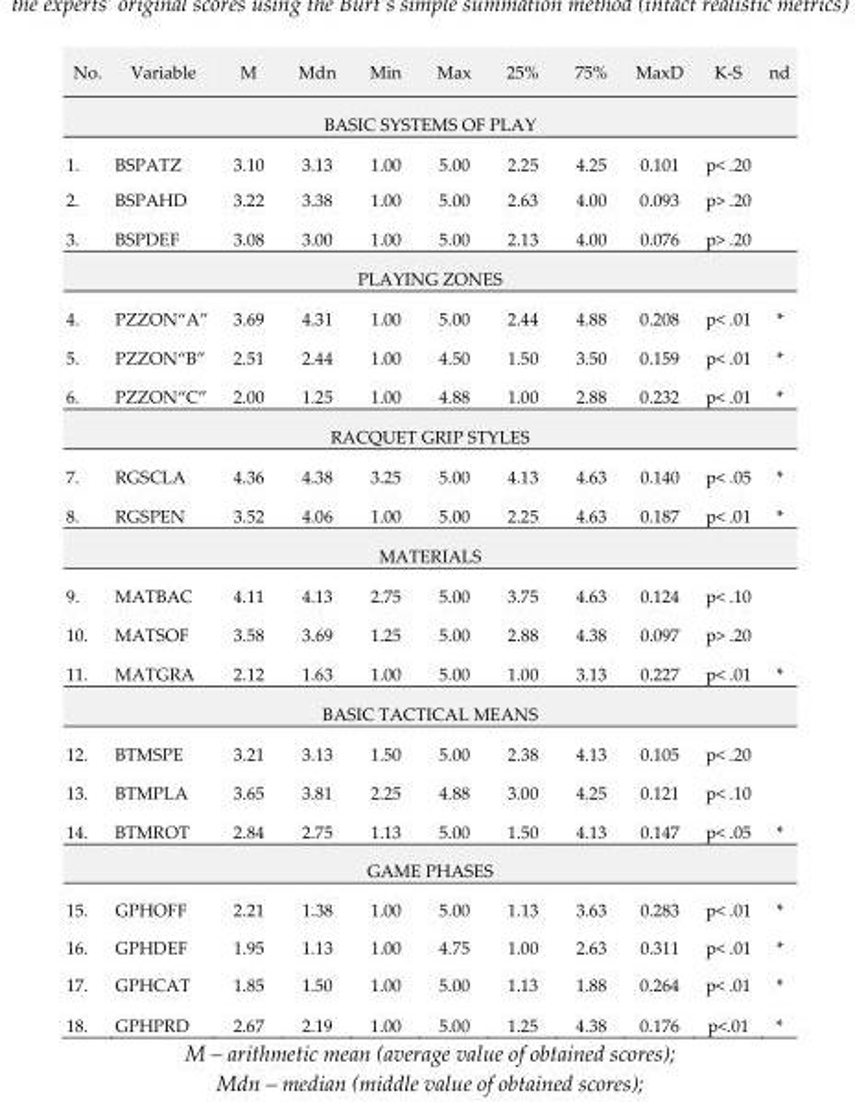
<table><thead><tr><td>No.</td><td>Variable</td><td>M</td><td>Mdn</td><td>Min</td><td>Max</td><td>25%</td><td>75%</td><td>MaxD</td><td>K-S</td><td>nd</td></tr></thead><tbody><tr><td colspan="11">BASIC SYSTEMS OF PLAY</td></tr><tr><td>1.</td><td>BSPATZ</td><td>3.10</td><td>3.13</td><td>1.00</td><td>5.00</td><td>2.25</td><td>4.25</td><td>0.101</td><td>p&lt; .20</td><td></td></tr><tr><td>2.</td><td>BSPAHD</td><td>3.22</td><td>3.38</td><td>1.00</td><td>5.00</td><td>2.63</td><td>4.00</td><td>0.093</td><td>p&gt; .20</td><td></td></tr><tr><td>3.</td><td>BSPDEF</td><td>3.08</td><td>3.00</td><td>1.00</td><td>5.00</td><td>2.13</td><td>4.00</td><td>0.076</td><td>p&gt; .20</td><td></td></tr><tr><td colspan="11">PLAYING ZONES</td></tr><tr><td>4.</td><td>PZZON“A”</td><td>3.69</td><td>4.31</td><td>1.00</td><td>5.00</td><td>2.44</td><td>4.88</td><td>0.208</td><td>p&lt; .01</td><td>*</td></tr><tr><td>5.</td><td>PZZON“B”</td><td>2.51</td><td>2.44</td><td>1.00</td><td>4.50</td><td>1.50</td><td>3.50</td><td>0.159</td><td>p&lt; .01</td><td>*</td></tr><tr><td>6.</td><td>PZZON“C”</td><td>2.00</td><td>1.25</td><td>1.00</td><td>4.88</td><td>1.00</td><td>2.88</td><td>0.232</td><td>p&lt; .01</td><td>*</td></tr><tr><td colspan="11">RACQUET GRIP STYLES</td></tr><tr><td>7.</td><td>RGSCLA</td><td>4.36</td><td>4.38</td><td>3.25</td><td>5.00</td><td>4.13</td><td>4.63</td><td>0.140</td><td>p&lt; .05</td><td>*</td></tr><tr><td>8.</td><td>RGSPEN</td><td>3.52</td><td>4.06</td><td>1.00</td><td>5.00</td><td>2.25</td><td>4.63</td><td>0.187</td><td>p&lt; .01</td><td>*</td></tr><tr><td colspan="11">MATERIALS</td></tr><tr><td>9.</td><td>MATBAC</td><td>4.11</td><td>4.13</td><td>2.75</td><td>5.00</td><td>3.75</td><td>4.63</td><td>0.124</td><td>p&lt; .10</td><td></td></tr><tr><td>10.</td><td>MATSOF</td><td>3.58</td><td>3.69</td><td>1.25</td><td>5.00</td><td>2.88</td><td>4.38</td><td>0.097</td><td>p&gt; .20</td><td></td></tr><tr><td>11.</td><td>MATGRA</td><td>2.12</td><td>1.63</td><td>1.00</td><td>5.00</td><td>1.00</td><td>3.13</td><td>0.227</td><td>p&lt; .01</td><td>*</td></tr><tr><td colspan="11">BASIC TACTICAL MEANS</td></tr><tr><td>12.</td><td>BTMSPE</td><td>3.21</td><td>3.13</td><td>1.50</td><td>5.00</td><td>2.38</td><td>4.13</td><td>0.105</td><td>p&lt; .20</td><td></td></tr><tr><td>13.</td><td>BTMPLA</td><td>3.65</td><td>3.81</td><td>2.25</td><td>4.88</td><td>3.00</td><td>4.25</td><td>0.121</td><td>p&lt; .10</td><td></td></tr><tr><td>14.</td><td>BTMROT</td><td>2.84</td><td>2.75</td><td>1.13</td><td>5.00</td><td>1.50</td><td>4.13</td><td>0.147</td><td>p&lt; .05</td><td>*</td></tr><tr><td colspan="11">GAME PHASES</td></tr><tr><td>15.</td><td>GPHOFF</td><td>2.21</td><td>1.38</td><td>1.00</td><td>5.00</td><td>1.13</td><td>3.63</td><td>0.283</td><td>p&lt; .01</td><td>*</td></tr><tr><td>16.</td><td>GPHDEF</td><td>1.95</td><td>1.13</td><td>1.00</td><td>4.75</td><td>1.00</td><td>2.63</td><td>0.311</td><td>p&lt; .01</td><td>*</td></tr><tr><td>17.</td><td>GPHCAT</td><td>1.85</td><td>1.50</td><td>1.00</td><td>5.00</td><td>1.13</td><td>1.88</td><td>0.264</td><td>p&lt; .01</td><td>*</td></tr><tr><td>18.</td><td>GPHPRD</td><td>2.67</td><td>2.19</td><td>1.00</td><td>5.00</td><td>1.25</td><td>4.38</td><td>0.176</td><td>p&lt;.01</td><td>*</td></tr></tbody></table>